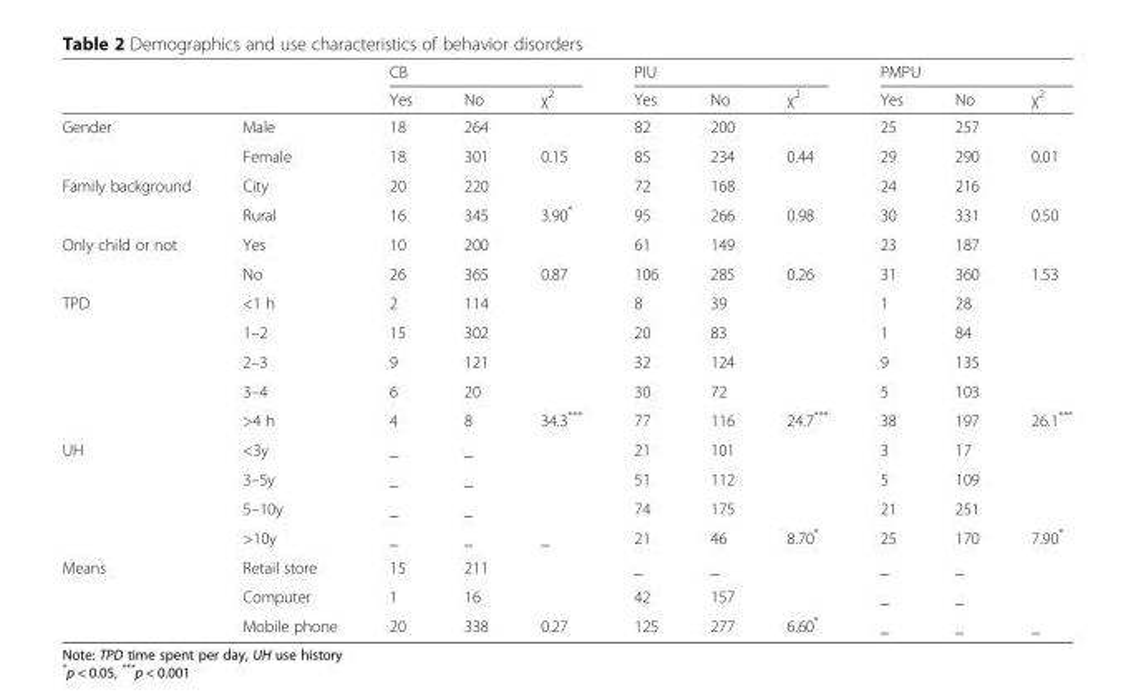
<table><thead><tr><td rowspan="2"></td><td rowspan="2"></td><td colspan="3">CB</td><td colspan="3">PIU</td><td colspan="3">PMPU</td></tr><tr><td>Yes</td><td>No</td><td>χ<sup>2</sup></td><td>Yes</td><td>No</td><td>χ<sup>2</sup></td><td>Yes</td><td>No</td><td>χ<sup>2</sup></td></tr></thead><tbody><tr><td rowspan="2">Gender</td><td>Male</td><td>18</td><td>264</td><td></td><td>82</td><td>200</td><td></td><td>25</td><td>257</td><td></td></tr><tr><td>Female</td><td>18</td><td>301</td><td>0.15</td><td>85</td><td>234</td><td>0.44</td><td>29</td><td>290</td><td>0.01</td></tr><tr><td rowspan="2">Family background</td><td>City</td><td>20</td><td>220</td><td></td><td>72</td><td>168</td><td></td><td>24</td><td>216</td><td></td></tr><tr><td>Rural</td><td>16</td><td>345</td><td>3.90*</td><td>95</td><td>266</td><td>0.98</td><td>30</td><td>331</td><td>0.50</td></tr><tr><td rowspan="2">Only child or not</td><td>Yes</td><td>10</td><td>200</td><td></td><td>61</td><td>149</td><td></td><td>23</td><td>187</td><td></td></tr><tr><td>No</td><td>26</td><td>365</td><td>0.87</td><td>106</td><td>285</td><td>0.26</td><td>31</td><td>360</td><td>1.53</td></tr><tr><td rowspan="5">TPD</td><td>&lt;1 h</td><td>2</td><td>114</td><td></td><td>8</td><td>39</td><td></td><td>1</td><td>28</td><td></td></tr><tr><td>1–2</td><td>15</td><td>302</td><td></td><td>20</td><td>83</td><td></td><td>1</td><td>84</td><td></td></tr><tr><td>2–3</td><td>9</td><td>121</td><td></td><td>32</td><td>124</td><td></td><td>9</td><td>135</td><td></td></tr><tr><td>3–4</td><td>6</td><td>20</td><td></td><td>30</td><td>72</td><td></td><td>5</td><td>103</td><td></td></tr><tr><td>&gt;4 h</td><td>4</td><td>8</td><td>34.3***</td><td>77</td><td>116</td><td>24.7***</td><td>38</td><td>197</td><td>26.1***</td></tr><tr><td rowspan="4">UH</td><td>&lt;3y</td><td>_</td><td>_</td><td></td><td>21</td><td>101</td><td></td><td>3</td><td>17</td><td></td></tr><tr><td>3–5y</td><td>_</td><td>_</td><td></td><td>51</td><td>112</td><td></td><td>5</td><td>109</td><td></td></tr><tr><td>5–10y</td><td>_</td><td>_</td><td></td><td>74</td><td>175</td><td></td><td>21</td><td>251</td><td></td></tr><tr><td>&gt;10y</td><td>_</td><td>_</td><td>_</td><td>21</td><td>46</td><td>8.70*</td><td>25</td><td>170</td><td>7.90*</td></tr><tr><td rowspan="3">Means</td><td>Retail store</td><td>15</td><td>211</td><td></td><td>_</td><td>_</td><td></td><td>_</td><td>_</td><td></td></tr><tr><td>Computer</td><td>1</td><td>16</td><td></td><td>42</td><td>157</td><td></td><td>_</td><td>_</td><td></td></tr><tr><td>Mobile phone</td><td>20</td><td>338</td><td>0.27</td><td>125</td><td>277</td><td>6.60*</td><td>_</td><td>_</td><td>_</td></tr></tbody></table>